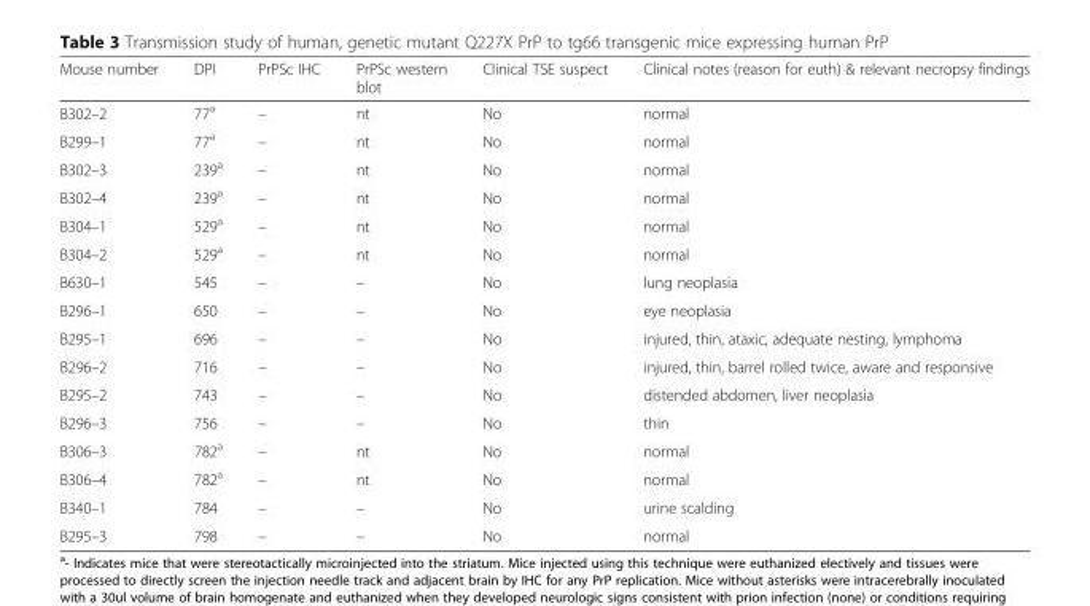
<table><thead><tr><td>Mouse number</td><td>DPI</td><td>PrPSc IHC</td><td>PrPSc western blot</td><td>Clinical TSE suspect</td><td>Clinical notes (reason for euth) &amp; relevant necropsy findings</td></tr></thead><tbody><tr><td>B302–2</td><td>77<sup>a</sup></td><td>–</td><td>nt</td><td>No</td><td>normal</td></tr><tr><td>B299–1</td><td>77<sup>a</sup></td><td>–</td><td>nt</td><td>No</td><td>normal</td></tr><tr><td>B302–3</td><td>239<sup>a</sup></td><td>–</td><td>nt</td><td>No</td><td>normal</td></tr><tr><td>B302–4</td><td>239<sup>a</sup></td><td>–</td><td>nt</td><td>No</td><td>normal</td></tr><tr><td>B304–1</td><td>529<sup>a</sup></td><td>–</td><td>nt</td><td>No</td><td>normal</td></tr><tr><td>B304–2</td><td>529<sup>a</sup></td><td>–</td><td>nt</td><td>No</td><td>normal</td></tr><tr><td>B630–1</td><td>545</td><td>–</td><td>–</td><td>No</td><td>lung neoplasia</td></tr><tr><td>B296–1</td><td>650</td><td>–</td><td>–</td><td>No</td><td>eye neoplasia</td></tr><tr><td>B295–1</td><td>696</td><td>–</td><td>–</td><td>No</td><td>injured, thin, ataxic, adequate nesting, lymphoma</td></tr><tr><td>B296–2</td><td>716</td><td>–</td><td>–</td><td>No</td><td>injured, thin, barrel rolled twice, aware and responsive</td></tr><tr><td>B295–2</td><td>743</td><td>–</td><td>–</td><td>No</td><td>distended abdomen, liver neoplasia</td></tr><tr><td>B296–3</td><td>756</td><td>–</td><td>–</td><td>No</td><td>thin</td></tr><tr><td>B306–3</td><td>782<sup>a</sup></td><td>–</td><td>nt</td><td>No</td><td>normal</td></tr><tr><td>B306–4</td><td>782<sup>a</sup></td><td>–</td><td>nt</td><td>No</td><td>normal</td></tr><tr><td>B340–1</td><td>784</td><td>–</td><td>–</td><td>No</td><td>urine scalding</td></tr><tr><td>B295–3</td><td>798</td><td>–</td><td>–</td><td>No</td><td>normal</td></tr></tbody></table>